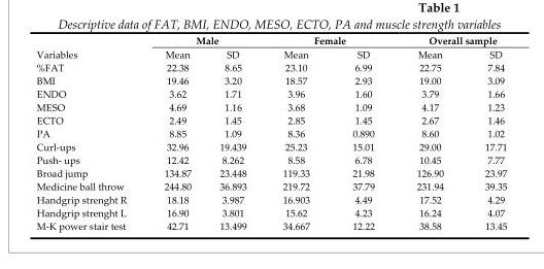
<table><thead><tr><td rowspan="2">Variables</td><td colspan="2">Male</td><td colspan="2">Female</td><td colspan="2">Overall sample</td></tr><tr><td>Mean</td><td>SD</td><td>Mean</td><td>SD</td><td>Mean</td><td>SD</td></tr></thead><tbody><tr><td>%FAT</td><td>22.38</td><td>8.65</td><td>23.10</td><td>6.99</td><td>22.75</td><td>7.84</td></tr><tr><td>BMI</td><td>19.46</td><td>3.20</td><td>18.57</td><td>2.93</td><td>19.00</td><td>3.09</td></tr><tr><td>ENDO</td><td>3.62</td><td>1.71</td><td>3.96</td><td>1.60</td><td>3.79</td><td>1.66</td></tr><tr><td>MESO</td><td>4.69</td><td>1.16</td><td>3.68</td><td>1.09</td><td>4.17</td><td>1.23</td></tr><tr><td>ECTO</td><td>2.49</td><td>1.45</td><td>2.85</td><td>1.45</td><td>2.67</td><td>1.46</td></tr><tr><td>PA</td><td>8.85</td><td>1.09</td><td>8.36</td><td>0.890</td><td>8.60</td><td>1.02</td></tr><tr><td>Curl-ups</td><td>32.96</td><td>19.439</td><td>25.23</td><td>15.01</td><td>29.00</td><td>17.71</td></tr><tr><td>Push- ups</td><td>12.42</td><td>8.262</td><td>8.58</td><td>6.78</td><td>10.45</td><td>7.77</td></tr><tr><td>Broad jump</td><td>134.87</td><td>23.448</td><td>119.33</td><td>21.98</td><td>126.90</td><td>23.97</td></tr><tr><td>Medicine ball throw</td><td>244.80</td><td>36.893</td><td>219.72</td><td>37.79</td><td>231.94</td><td>39.35</td></tr><tr><td>Handgrip strenght R</td><td>18.18</td><td>3.987</td><td>16.903</td><td>4.49</td><td>17.52</td><td>4.29</td></tr><tr><td>Handgrip strenght L</td><td>16.90</td><td>3.801</td><td>15.62</td><td>4.23</td><td>16.24</td><td>4.07</td></tr><tr><td>M-K power stair test</td><td>42.71</td><td>13.499</td><td>34.667</td><td>12.22</td><td>38.58</td><td>13.45</td></tr></tbody></table>